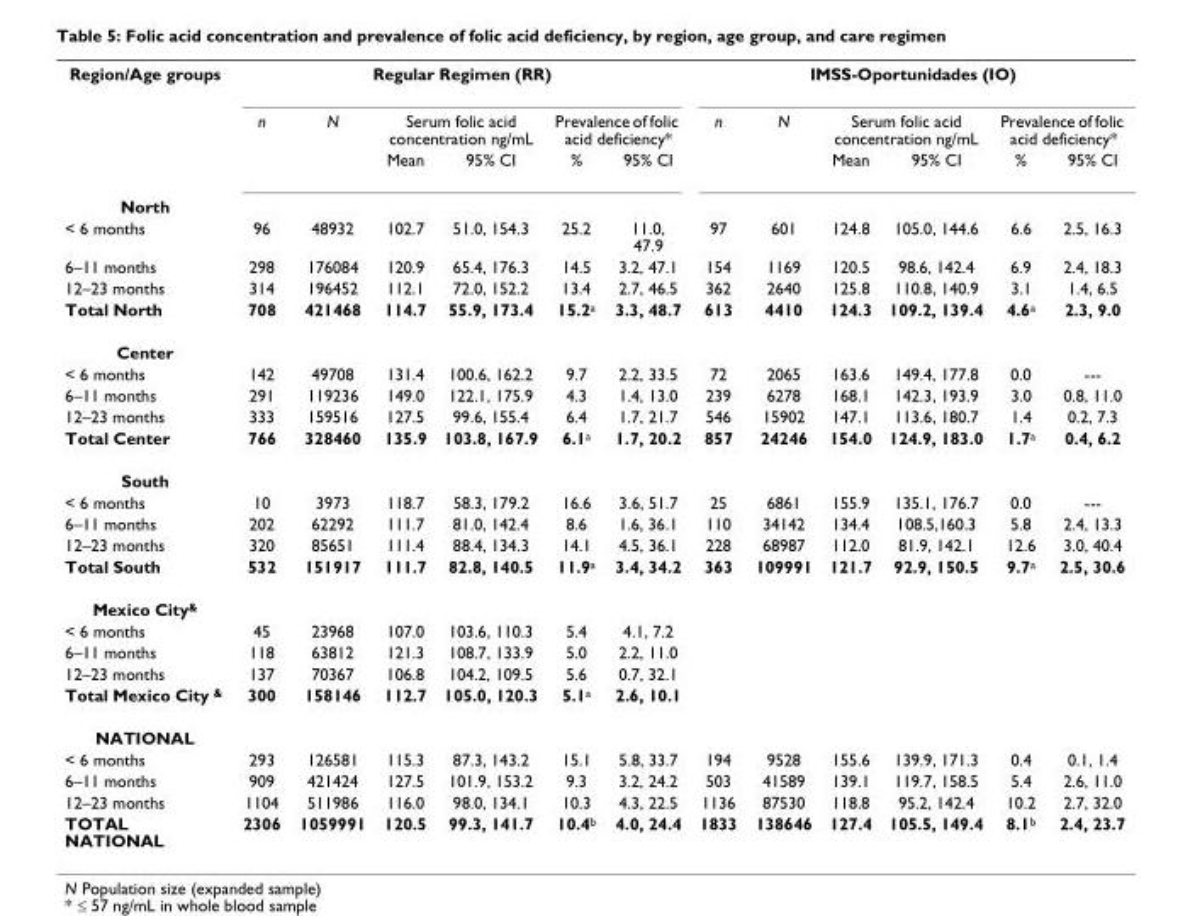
<table><tbody><tr><td rowspan="3">Region/Age groups</td><td colspan="6">Regular Regimen (RR)</td><td colspan="6">IMSS-Oportunidades (IO)</td></tr><tr><td>n</td><td>N</td><td colspan="2">Serum folic acid concentration ng/mL</td><td colspan="2">Prevalence of folic acid deficiency*</td><td>n</td><td>N</td><td colspan="2">Serum folic acid concentration ng/mL</td><td colspan="2">Prevalence of folic acid deficiency*</td></tr><tr><td></td><td></td><td>Mean</td><td>95% CI</td><td>%</td><td>95% CI</td><td></td><td></td><td>Mean</td><td>95% CI</td><td>%</td><td>95% CI</td></tr><tr><td colspan="13">North</td></tr><tr><td>&lt; 6 months</td><td>96</td><td>48932</td><td>102.7</td><td>51.0, 154.3</td><td>25.2</td><td>11.0, 47.9</td><td>97</td><td>601</td><td>124.8</td><td>105.0, 144.6</td><td>6.6</td><td>2.5, 16.3</td></tr><tr><td>6–11 months</td><td>298</td><td>176084</td><td>120.9</td><td>65.4, 176.3</td><td>14.5</td><td>3.2, 47.1</td><td>154</td><td>1169</td><td>120.5</td><td>98.6, 142.4</td><td>6.9</td><td>2.4, 18.3</td></tr><tr><td>12–23 months</td><td>314</td><td>196452</td><td>112.1</td><td>72.0, 152.2</td><td>13.4</td><td>2.7, 46.5</td><td>362</td><td>2640</td><td>125.8</td><td>110.8, 140.9</td><td>3.1</td><td>1.4, 6.5</td></tr><tr><td>Total North</td><td>708</td><td>421468</td><td>114.7</td><td>55.9, 173.4</td><td>15.2<sup>a</sup></td><td>3.3, 48.7</td><td>613</td><td>4410</td><td>124.3</td><td>109.2, 139.4</td><td>4.6<sup>a</sup></td><td>2.3, 9.0</td></tr><tr><td colspan="13">Center</td></tr><tr><td>&lt; 6 months</td><td>142</td><td>49708</td><td>131.4</td><td>100.6, 162.2</td><td>9.7</td><td>2.2, 33.5</td><td>72</td><td>2065</td><td>163.6</td><td>149.4, 177.8</td><td>0.0</td><td>---</td></tr><tr><td>6–11 months</td><td>291</td><td>119236</td><td>149.0</td><td>122.1, 175.9</td><td>4.3</td><td>1.4, 13.0</td><td>239</td><td>6278</td><td>168.1</td><td>142.3, 193.9</td><td>3.0</td><td>0.8, 11.0</td></tr><tr><td>12–23 months</td><td>333</td><td>159516</td><td>127.5</td><td>99.6, 155.4</td><td>6.4</td><td>1.7, 21.7</td><td>546</td><td>15902</td><td>147.1</td><td>113.6, 180.7</td><td>1.4</td><td>0.2, 7.3</td></tr><tr><td>Total Center</td><td>766</td><td>328460</td><td>135.9</td><td>103.8, 167.9</td><td>6.1<sup>a</sup></td><td>1.7, 20.2</td><td>857</td><td>24246</td><td>154.0</td><td>124.9, 183.0</td><td>1.7<sup>a</sup></td><td>0.4, 6.2</td></tr><tr><td colspan="13">South</td></tr><tr><td>&lt; 6 months</td><td>10</td><td>3973</td><td>118.7</td><td>58.3, 179.2</td><td>16.6</td><td>3.6, 51.7</td><td>25</td><td>6861</td><td>155.9</td><td>135.1, 176.7</td><td>0.0</td><td>---</td></tr><tr><td>6–11 months</td><td>202</td><td>62292</td><td>111.7</td><td>81.0, 142.4</td><td>8.6</td><td>1.6, 36.1</td><td>110</td><td>34142</td><td>134.4</td><td>108.5,160.3</td><td>5.8</td><td>2.4, 13.3</td></tr><tr><td>12–23 months</td><td>320</td><td>85651</td><td>111.4</td><td>88.4, 134.3</td><td>14.1</td><td>4.5, 36.1</td><td>228</td><td>68987</td><td>112.0</td><td>81.9, 142.1</td><td>12.6</td><td>3.0, 40.4</td></tr><tr><td>Total South</td><td>532</td><td>151917</td><td>111.7</td><td>82.8, 140.5</td><td>11.9<sup>a</sup></td><td>3.4, 34.2</td><td>363</td><td>109991</td><td>121.7</td><td>92.9, 150.5</td><td>9.7<sup>a</sup></td><td>2.5, 30.6</td></tr><tr><td colspan="13">Mexico City<sup>&amp;</sup></td></tr><tr><td>&lt; 6 months</td><td>45</td><td>23968</td><td>107.0</td><td>103.6, 110.3</td><td>5.4</td><td>4.1, 7.2</td><td></td><td></td><td></td><td></td><td></td><td></td></tr><tr><td>6–11 months</td><td>118</td><td>63812</td><td>121.3</td><td>108.7, 133.9</td><td>5.0</td><td>2.2, 11.0</td><td></td><td></td><td></td><td></td><td></td><td></td></tr><tr><td>12–23 months</td><td>137</td><td>70367</td><td>106.8</td><td>104.2, 109.5</td><td>5.6</td><td>0.7, 32.1</td><td></td><td></td><td></td><td></td><td></td><td></td></tr><tr><td>Total Mexico City <sup>&amp;</sup></td><td>300</td><td>158146</td><td>112.7</td><td>105.0, 120.3</td><td>5.1<sup>a</sup></td><td>2.6, 10.1</td><td></td><td></td><td></td><td></td><td></td><td></td></tr><tr><td colspan="13">NATIONAL</td></tr><tr><td>&lt; 6 months</td><td>293</td><td>126581</td><td>115.3</td><td>87.3, 143.2</td><td>15.1</td><td>5.8, 33.7</td><td>194</td><td>9528</td><td>155.6</td><td>139.9, 171.3</td><td>0.4</td><td>0.1, 1.4</td></tr><tr><td>6–11 months</td><td>909</td><td>421424</td><td>127.5</td><td>101.9, 153.2</td><td>9.3</td><td>3.2, 24.2</td><td>503</td><td>41589</td><td>139.1</td><td>119.7, 158.5</td><td>5.4</td><td>2.6, 11.0</td></tr><tr><td>12–23 months</td><td>1104</td><td>511986</td><td>116.0</td><td>98.0, 134.1</td><td>10.3</td><td>4.3, 22.5</td><td>1136</td><td>87530</td><td>118.8</td><td>95.2, 142.4</td><td>10.2</td><td>2.7, 32.0</td></tr><tr><td>TOTAL NATIONAL</td><td>2306</td><td>1059991</td><td>120.5</td><td>99.3, 141.7</td><td>10.4<sup>b</sup></td><td>4.0, 24.4</td><td>1833</td><td>138646</td><td>127.4</td><td>105.5, 149.4</td><td>8.1<sup>b</sup></td><td>2.4, 23.7</td></tr></tbody></table>